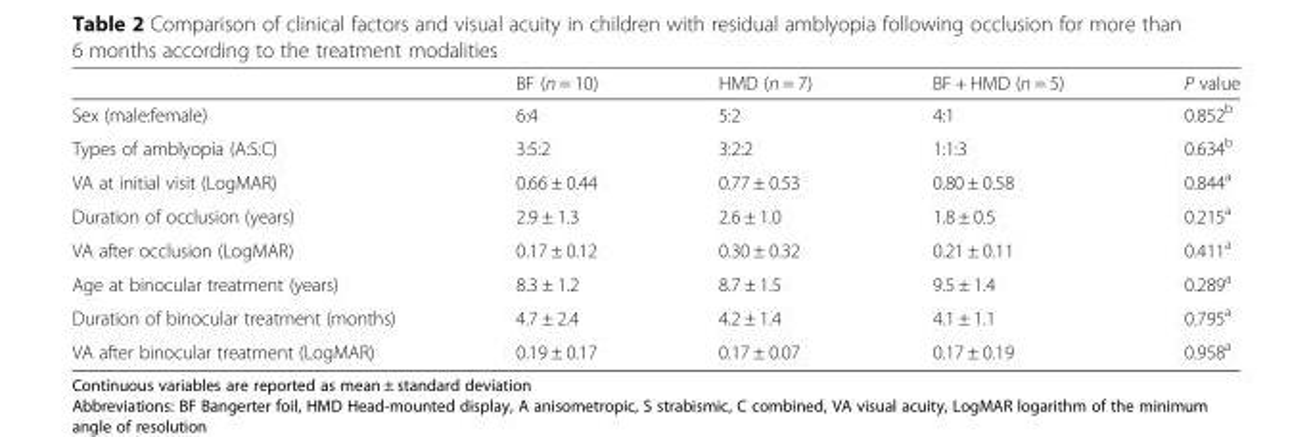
<table><thead><tr><td></td><td>BF (n = 10)</td><td>HMD (n = 7)</td><td>BF + HMD (n = 5)</td><td>P value</td></tr></thead><tbody><tr><td>Sex (male:female)</td><td>6:4</td><td>5:2</td><td>4:1</td><td>0.852<sup>b</sup></td></tr><tr><td>Types of amblyopia (A:S:C)</td><td>3:5:2</td><td>3:2:2</td><td>1:1:3</td><td>0.634<sup>b</sup></td></tr><tr><td>VA at initial visit (LogMAR)</td><td>0.66 ± 0.44</td><td>0.77 ± 0.53</td><td>0.80 ± 0.58</td><td>0.844<sup>a</sup></td></tr><tr><td>Duration of occlusion (years)</td><td>2.9 ± 1.3</td><td>2.6 ± 1.0</td><td>1.8 ± 0.5</td><td>0.215<sup>a</sup></td></tr><tr><td>VA after occlusion (LogMAR)</td><td>0.17 ± 0.12</td><td>0.30 ± 0.32</td><td>0.21 ± 0.11</td><td>0.411<sup>a</sup></td></tr><tr><td>Age at binocular treatment (years)</td><td>8.3 ± 1.2</td><td>8.7 ± 1.5</td><td>9.5 ± 1.4</td><td>0.289<sup>a</sup></td></tr><tr><td>Duration of binocular treatment (months)</td><td>4.7 ± 2.4</td><td>4.2 ± 1.4</td><td>4.1 ± 1.1</td><td>0.795<sup>a</sup></td></tr><tr><td>VA after binocular treatment (LogMAR)</td><td>0.19 ± 0.17</td><td>0.17 ± 0.07</td><td>0.17 ± 0.19</td><td>0.958<sup>a</sup></td></tr></tbody></table>